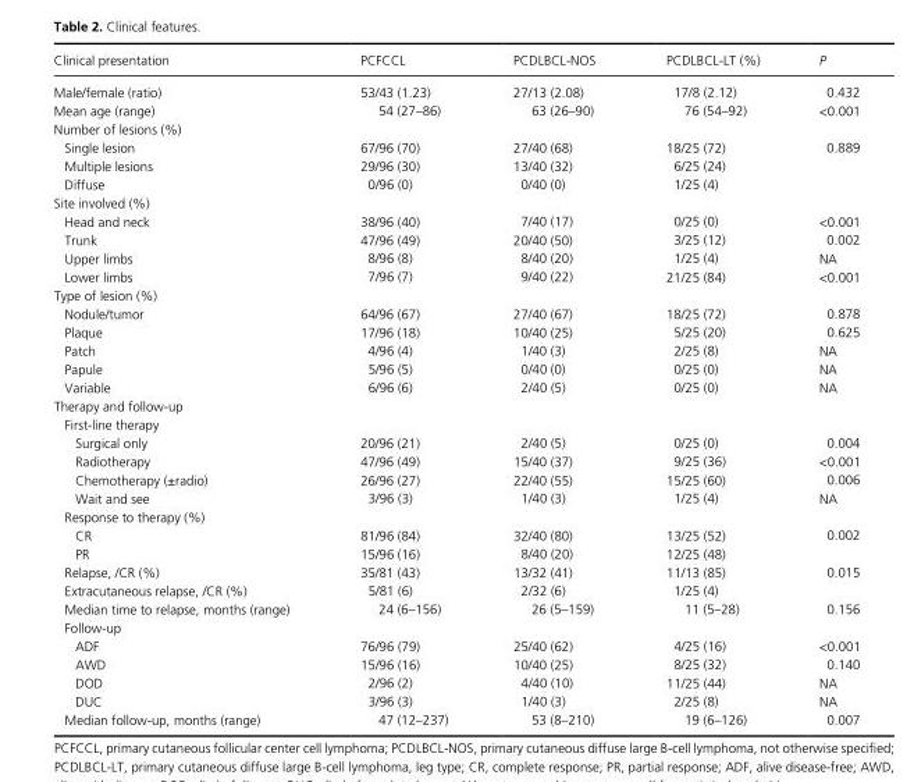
<table><thead><tr><td>Clinical presentation</td><td>PCFCCL</td><td>PCDLBCL- NOS</td><td>PCDLBCL- LT (%)</td><td>P</td></tr></thead><tbody><tr><td>Male/female (ratio)</td><td>53/43 (1.23)</td><td>27/13 (2.08)</td><td>17/8 (2.12)</td><td>0.432</td></tr><tr><td>Mean age (range)</td><td>54 (27–86)</td><td>63 (26–90)</td><td>76 (54–92)</td><td>&lt;0.001</td></tr><tr><td colspan="5">Number of lesions (%)</td></tr><tr><td>Single lesion</td><td>67/96 (70)</td><td>27/40 (68)</td><td>18/25 (72)</td><td>0.889</td></tr><tr><td>Multiple lesions</td><td>29/96 (30)</td><td>13/40 (32)</td><td>6/25 (24)</td><td></td></tr><tr><td>Diffuse</td><td>0/96 (0)</td><td>0/40 (0)</td><td>1/25 (4)</td><td></td></tr><tr><td colspan="5">Site involved (%)</td></tr><tr><td>Head and neck</td><td>38/96 (40)</td><td>7/40 (17)</td><td>0/25 (0)</td><td>&lt;0.001</td></tr><tr><td>Trunk</td><td>47/96 (49)</td><td>20/40 (50)</td><td>3/25 (12)</td><td>0.002</td></tr><tr><td>Upper limbs</td><td>8/96 (8)</td><td>8/40 (20)</td><td>1/25 (4)</td><td>NA</td></tr><tr><td>Lower limbs</td><td>7/96 (7)</td><td>9/40 (22)</td><td>21/25 (84)</td><td>&lt;0.001</td></tr><tr><td colspan="5">Type of lesion (%)</td></tr><tr><td>Nodule/tumor</td><td>64/96 (67)</td><td>27/40 (67)</td><td>18/25 (72)</td><td>0.878</td></tr><tr><td>Plaque</td><td>17/96 (18)</td><td>10/40 (25)</td><td>5/25 (20)</td><td>0.625</td></tr><tr><td>Patch</td><td>4/96 (4)</td><td>1/40 (3)</td><td>2/25 (8)</td><td>NA</td></tr><tr><td>Papule</td><td>5/96 (5)</td><td>0/40 (0)</td><td>0/25 (0)</td><td>NA</td></tr><tr><td>Variable</td><td>6/96 (6)</td><td>2/40 (5)</td><td>0/25 (0)</td><td>NA</td></tr><tr><td colspan="5">Therapy and follow- up</td></tr><tr><td colspan="5">First- line therapy</td></tr><tr><td>Surgical only</td><td>20/96 (21)</td><td>2/40 (5)</td><td>0/25 (0)</td><td>0.004</td></tr><tr><td>Radiotherapy</td><td>47/96 (49)</td><td>15/40 (37)</td><td>9/25 (36)</td><td>&lt;0.001</td></tr><tr><td>Chemotherapy (±radio)</td><td>26/96 (27)</td><td>22/40 (55)</td><td>15/25 (60)</td><td>0.006</td></tr><tr><td>Wait and see</td><td>3/96 (3)</td><td>1/40 (3)</td><td>1/25 (4)</td><td>NA</td></tr><tr><td colspan="5">Response to therapy (%)</td></tr><tr><td>CR</td><td>81/96 (84)</td><td>32/40 (80)</td><td>13/25 (52)</td><td rowspan="2">0.002</td></tr><tr><td>PR</td><td>15/96 (16)</td><td>8/40 (20)</td><td>12/25 (48)</td></tr><tr><td>Relapse, /CR (%)</td><td>35/81 (43)</td><td>13/32 (41)</td><td>11/13 (85)</td><td>0.015</td></tr><tr><td>Extracutaneous relapse, /CR (%)</td><td>5/81 (6)</td><td>2/32 (6)</td><td>1/25 (4)</td><td></td></tr><tr><td>Median time to relapse, months (range)</td><td>24 (6–156)</td><td>26 (5–159)</td><td>11 (5–28)</td><td>0.156</td></tr><tr><td colspan="5">Follow- up</td></tr><tr><td>ADF</td><td>76/96 (79)</td><td>25/40 (62)</td><td>4/25 (16)</td><td>&lt;0.001</td></tr><tr><td>AWD</td><td>15/96 (16)</td><td>10/40 (25)</td><td>8/25 (32)</td><td>0.140</td></tr><tr><td>DOD</td><td>2/96 (2)</td><td>4/40 (10)</td><td>11/25 (44)</td><td>NA</td></tr><tr><td>DUC</td><td>3/96 (3)</td><td>1/40 (3)</td><td>2/25 (8)</td><td>NA</td></tr><tr><td>Median follow- up, months (range)</td><td>47 (12–237)</td><td>53 (8–210)</td><td>19 (6–126)</td><td>0.007</td></tr></tbody></table>